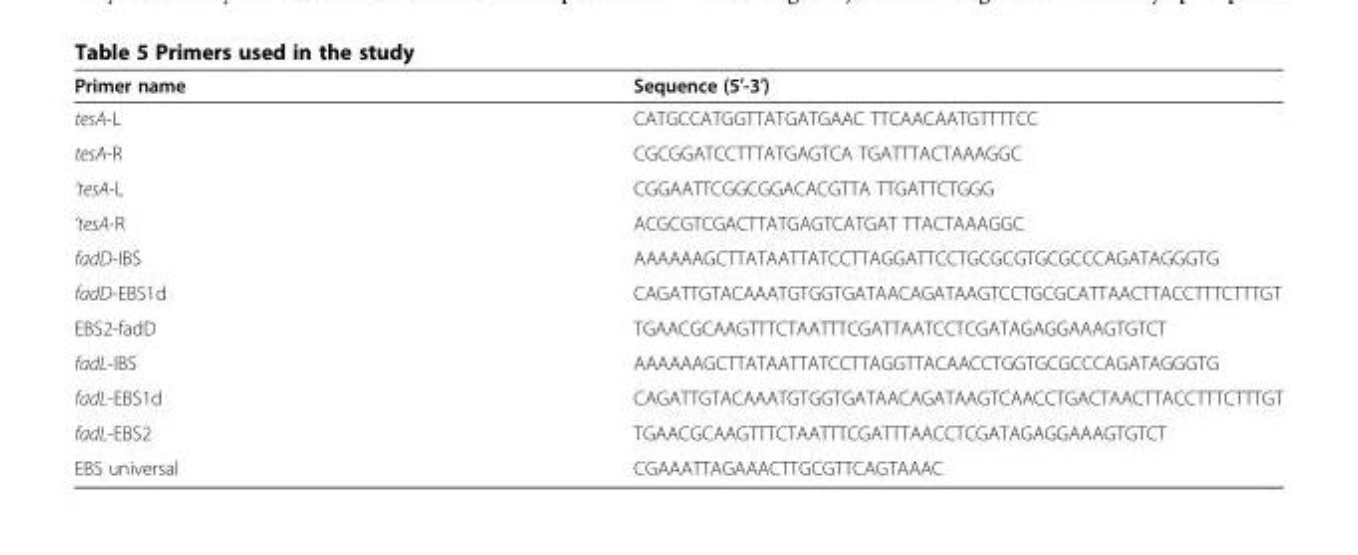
<table><thead><tr><td>Primer name</td><td>Sequence (5′-3′)</td></tr></thead><tbody><tr><td>tesA-L</td><td>CATGCCATGGTTATGATGAAC TTCAACAATGTTTTCC</td></tr><tr><td>tesA-R</td><td>CGCGGATCCTTTATGAGTCA TGATTTACTAAAGGC</td></tr><tr><td>‘tesA-L</td><td>CGGAATTCGGCGGACACGTTA TTGATTCTGGG</td></tr><tr><td>‘tesA-R</td><td>ACGCGTCGACTTATGAGTCATGAT TTACTAAAGGC</td></tr><tr><td>fadD-IBS</td><td>AAAAAAGCTTATAATTATCCTTAGGATTCCTGCGCGTGCGCCCAGATAGGGTG</td></tr><tr><td>fadD-EBS1d</td><td>CAGATTGTACAAATGTGGTGATAACAGATAAGTCCTGCGCATTAACTTACCTTTCTTTGT</td></tr><tr><td>EBS2-fadD</td><td>TGAACGCAAGTTTCTAATTTCGATTAATCCTCGATAGAGGAAAGTGTCT</td></tr><tr><td>fadL-IBS</td><td>AAAAAAGCTTATAATTATCCTTAGGTTACAACCTGGTGCGCCCAGATAGGGTG</td></tr><tr><td>fadL-EBS1d</td><td>CAGATTGTACAAATGTGGTGATAACAGATAAGTCAACCTGACTAACTTACCTTTCTTTGT</td></tr><tr><td>fadL-EBS2</td><td>TGAACGCAAGTTTCTAATTTCGATTTAACCTCGATAGAGGAAAGTGTCT</td></tr><tr><td>EBS universal</td><td>CGAAATTAGAAACTTGCGTTCAGTAAAC</td></tr></tbody></table>